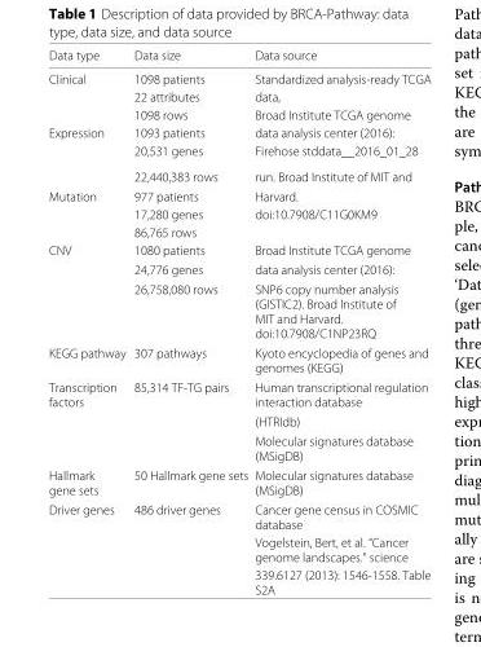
<table><thead><tr><td>Data type</td><td>Data size</td><td>Data source</td></tr></thead><tbody><tr><td rowspan="3">Clinical</td><td>1098 patients</td><td>Standardized analysis-ready TCGA</td></tr><tr><td>22 attributes</td><td>data,</td></tr><tr><td>1098 rows</td><td>Broad Institute TCGA genome</td></tr><tr><td rowspan="3">Expression</td><td>1093 patients</td><td>data analysis center (2016):</td></tr><tr><td>20,531 genes</td><td>Firehose stddata__2016_01_28</td></tr><tr><td>22,440,383 rows</td><td>run. Broad Institute of MIT and</td></tr><tr><td rowspan="3">Mutation</td><td>977 patients</td><td>Harvard.</td></tr><tr><td>17,280 genes</td><td>doi:10.7908/C11G0KM9</td></tr><tr><td>86,765 rows</td><td></td></tr><tr><td rowspan="3">CNV</td><td>1080 patients</td><td>Broad Institute TCGA genome</td></tr><tr><td>24,776 genes</td><td>data analysis center (2016):</td></tr><tr><td>26,758,080 rows</td><td>SNP6 copy number analysis (GISTIC2). Broad Institute of MIT and Harvard. doi:10.7908/C1NP23RQ</td></tr><tr><td>KEGG pathway</td><td>307 pathways</td><td>Kyoto encyclopedia of genes and genomes (KEGG)</td></tr><tr><td rowspan="3">Transcription factors</td><td>85,314 TF-TG pairs</td><td>Human transcriptional regulation interaction database</td></tr><tr><td></td><td>(HTRIdb)</td></tr><tr><td></td><td>Molecular signatures database (MSigDB)</td></tr><tr><td>Hallmark gene sets</td><td>50 Hallmark gene sets</td><td>Molecular signatures database (MSigDB)</td></tr><tr><td rowspan="3">Driver genes</td><td>486 driver genes</td><td>Cancer gene census in COSMIC database</td></tr><tr><td></td><td>Vogelstein, Bert, et al. “Cancer genome landscapes.” science</td></tr><tr><td></td><td>339.6127 (2013): 1546-1558. Table S2A</td></tr></tbody></table>